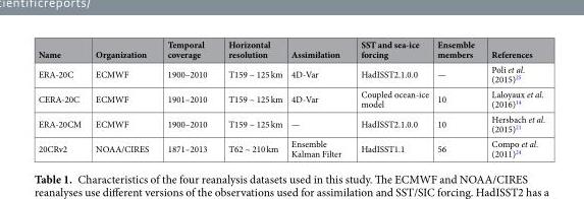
<table><thead><tr><td>Name</td><td>Organization</td><td>Temporal coverage</td><td>Horizontal resolution</td><td>Assimilation</td><td>SST and sea-ice forcing</td><td>Ensemble members</td><td>References</td></tr></thead><tbody><tr><td>ERA-20C</td><td>ECMWF</td><td>1900–2010</td><td>T159 ~ 125 km</td><td>4D-Var</td><td>HadISST2.1.0.0</td><td>—</td><td>Poli et al. (2015)<sup>25</sup></td></tr><tr><td>CERA-20C</td><td>ECMWF</td><td>1901–2010</td><td>T159 ~ 125 km</td><td>4D-Var</td><td>Coupled ocean-ice model</td><td>10</td><td>Laloyaux et al. (2016)<sup>14</sup></td></tr><tr><td>ERA-20CM</td><td>ECMWF</td><td>1900–2010</td><td>T159 ~ 125 km</td><td>—</td><td>HadISST2.1.0.0</td><td>10</td><td>Hersbach et al. (2015)<sup>21</sup></td></tr><tr><td>20CRv2</td><td>NOAA/CIRES</td><td>1871–2013</td><td>T62 ~ 210 km</td><td>Ensemble Kalman Filter</td><td>HadISST1.1</td><td>56</td><td>Compo et al. (2011)<sup>24</sup></td></tr></tbody></table>